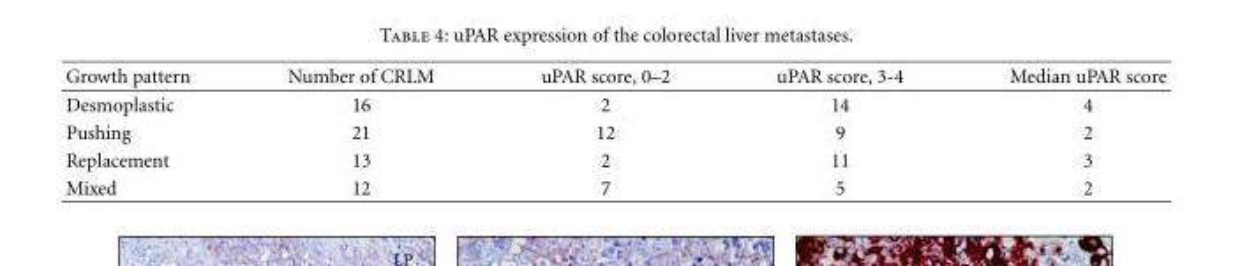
<table><thead><tr><td>Growth pattern</td><td>Number of CRLM</td><td>uPAR score, 0–2</td><td>uPAR score, 3-4</td><td>Median uPAR score</td></tr></thead><tbody><tr><td>Desmoplastic</td><td>16</td><td>2</td><td>14</td><td>4</td></tr><tr><td>Pushing</td><td>21</td><td>12</td><td>9</td><td>2</td></tr><tr><td>Replacement</td><td>13</td><td>2</td><td>11</td><td>3</td></tr><tr><td>Mixed</td><td>12</td><td>7</td><td>5</td><td>2</td></tr></tbody></table>